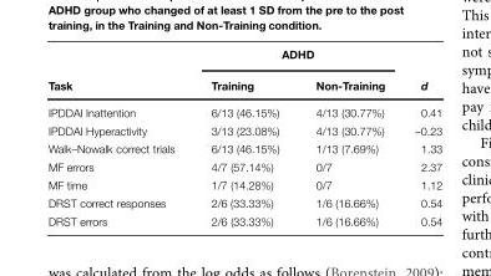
<table><thead><tr><td rowspan="2">Task</td><td colspan="2">ADHD</td><td rowspan="2">d</td></tr><tr><td>Training</td><td>Non-Training</td></tr></thead><tbody><tr><td>IPDDAI Inattention</td><td>6/13 (46.15%)</td><td>4/13 (30.77%)</td><td>0.41</td></tr><tr><td>IPDDAI Hyperactivity</td><td>3/13 (23.08%)</td><td>4/13 (30.77%)</td><td>–0.23</td></tr><tr><td>Walk–Nowalk correct trials</td><td>6/13 (46.15%)</td><td>1/13 (7.69%)</td><td>1.33</td></tr><tr><td>MF errors</td><td>4/7 (57.14%)</td><td>0/7</td><td>2.37</td></tr><tr><td>MF time</td><td>1/7 (14.28%)</td><td>0/7</td><td>1.12</td></tr><tr><td>DRST correct responses</td><td>2/6 (33.33%)</td><td>1/6 (16.66%)</td><td>0.54</td></tr><tr><td>DRST errors</td><td>2/6 (33.33%)</td><td>1/6 (16.66%)</td><td>0.54</td></tr></tbody></table>